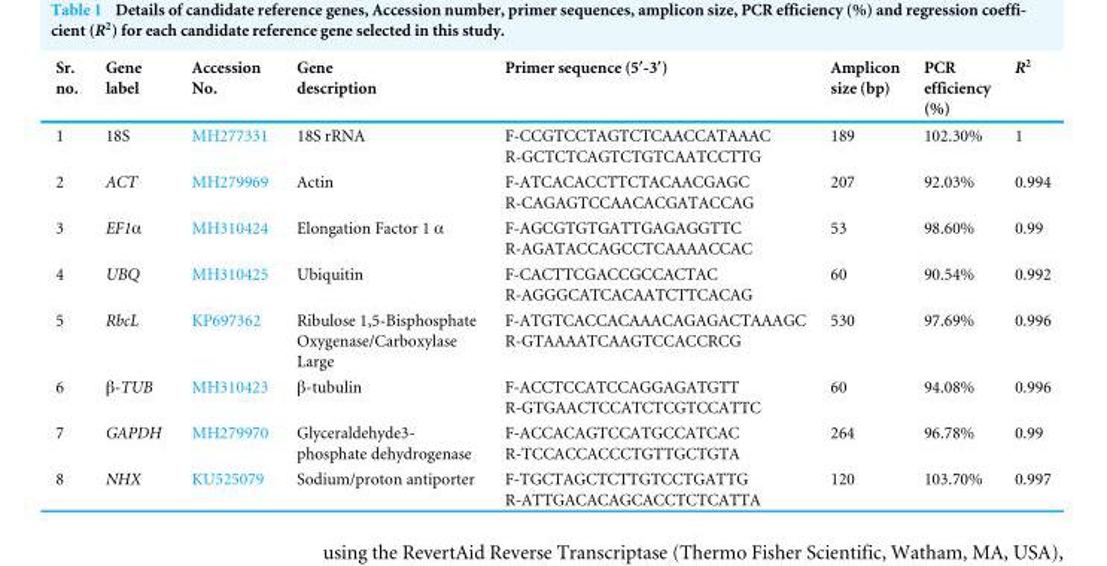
<table><thead><tr><td>Sr. no.</td><td>Gene label</td><td>Accession No.</td><td>Gene description</td><td>Primer sequence (5′-3′)</td><td>Amplicon size (bp)</td><td>PCR efficiency (%)</td><td>R<sup>2</sup></td></tr></thead><tbody><tr><td>1</td><td>18S</td><td>MH277331</td><td>18S rRNA</td><td>F-CCGTCCTAGTCTCAACCATAAAC R-GCTCTCAGTCTGTCAATCCTTG</td><td>189</td><td>102.30%</td><td>1</td></tr><tr><td>2</td><td>ACT</td><td>MH279969</td><td>Actin</td><td>F-ATCACACCTTCTACAACGAGC R-CAGAGTCCAACACGATACCAG</td><td>207</td><td>92.03%</td><td>0.994</td></tr><tr><td>3</td><td>EF1α</td><td>MH310424</td><td>Elongation Factor 1 α</td><td>F-AGCGTGTGATTGAGAGGTTC R-AGATACCAGCCTCAAAACCAC</td><td>53</td><td>98.60%</td><td>0.99</td></tr><tr><td>4</td><td>UBQ</td><td>MH310425</td><td>Ubiquitin</td><td>F-CACTTCGACCGCCACTAC R-AGGGCATCACAATCTTCACAG</td><td>60</td><td>90.54%</td><td>0.992</td></tr><tr><td>5</td><td>RbcL</td><td>KP697362</td><td>Ribulose 1,5-Bisphosphate Oxygenase/Carboxylase Large</td><td>F-ATGTCACCACAAACAGAGACTAAAGC R-GTAAAATCAAGTCCACCRCG</td><td>530</td><td>97.69%</td><td>0.996</td></tr><tr><td>6</td><td>β-TUB</td><td>MH310423</td><td>β-tubulin</td><td>F-ACCTCCATCCAGGAGATGTT R-GTGAACTCCATCTCGTCCATTC</td><td>60</td><td>94.08%</td><td>0.996</td></tr><tr><td>7</td><td>GAPDH</td><td>MH279970</td><td>Glyceraldehyde3- phosphate dehydrogenase</td><td>F-ACCACAGTCCATGCCATCAC R-TCCACCACCCTGTTGCTGTA</td><td>264</td><td>96.78%</td><td>0.99</td></tr><tr><td>8</td><td>NHX</td><td>KU525079</td><td>Sodium/proton antiporter</td><td>F-TGCTAGCTCTTGTCCTGATTG R-ATTGACACAGCACCTCTCATTA</td><td>120</td><td>103.70%</td><td>0.997</td></tr></tbody></table>